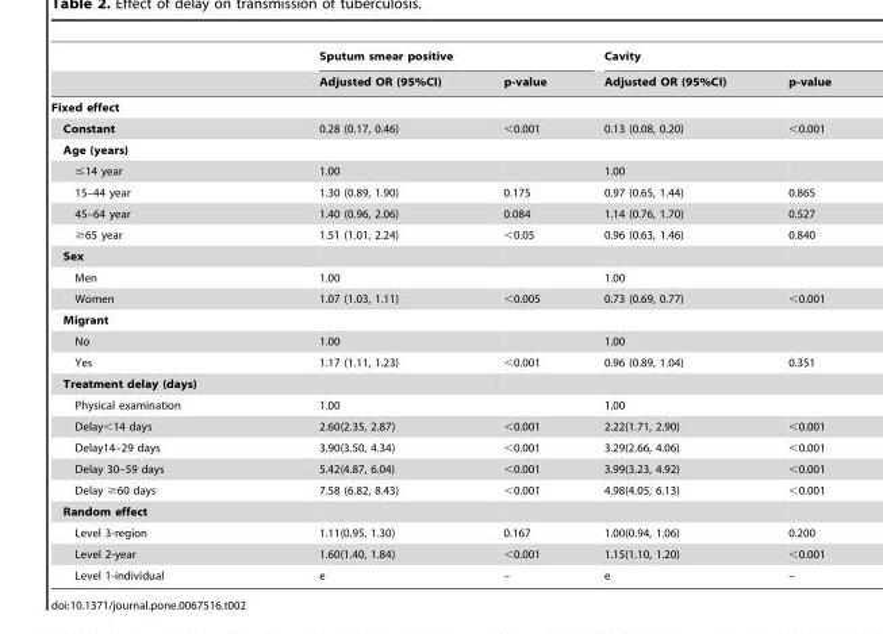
<table><thead><tr><td rowspan="2"></td><td colspan="2">Sputum smear positive</td><td colspan="2">Cavity</td></tr><tr><td>Adjusted OR (95%CI)</td><td>p-value</td><td>Adjusted OR (95%CI)</td><td>p-value</td></tr></thead><tbody><tr><td colspan="5">Fixed effect</td></tr><tr><td>Constant</td><td>0.28 (0.17, 0.46)</td><td>&lt;0.001</td><td>0.13 (0.08, 0.20)</td><td>&lt;0.001</td></tr><tr><td colspan="5">Age (years)</td></tr><tr><td>≤14 year</td><td>1.00</td><td></td><td>1.00</td><td></td></tr><tr><td>15–44 year</td><td>1.30 (0.89, 1.90)</td><td>0.175</td><td>0.97 (0.65, 1.44)</td><td>0.865</td></tr><tr><td>45–64 year</td><td>1.40 (0.96, 2.06)</td><td>0.084</td><td>1.14 (0.76, 1.70)</td><td>0.527</td></tr><tr><td>≥65 year</td><td>1.51 (1.01, 2.24)</td><td>&lt;0.05</td><td>0.96 (0.63, 1.46)</td><td>0.840</td></tr><tr><td colspan="5">Sex</td></tr><tr><td>Men</td><td>1.00</td><td></td><td>1.00</td><td></td></tr><tr><td>Women</td><td>1.07 (1.03, 1.11)</td><td>&lt;0.005</td><td>0.73 (0.69, 0.77)</td><td>&lt;0.001</td></tr><tr><td colspan="5">Migrant</td></tr><tr><td>No</td><td>1.00</td><td></td><td>1.00</td><td></td></tr><tr><td>Yes</td><td>1.17 (1.11, 1.23)</td><td>&lt;0.001</td><td>0.96 (0.89, 1.04)</td><td>0.351</td></tr><tr><td colspan="5">Treatment delay (days)</td></tr><tr><td>Physical examination</td><td>1.00</td><td></td><td>1.00</td><td></td></tr><tr><td>Delay&lt;14 days</td><td>2.60(2.35, 2.87)</td><td>&lt;0.001</td><td>2.22(1.71, 2.90)</td><td>&lt;0.001</td></tr><tr><td>Delay14–29 days</td><td>3.90(3.50, 4.34)</td><td>&lt;0.001</td><td>3.29(2.66, 4.06)</td><td>&lt;0.001</td></tr><tr><td>Delay 30–59 days</td><td>5.42(4.87, 6.04)</td><td>&lt;0.001</td><td>3.99(3.23, 4.92)</td><td>&lt;0.001</td></tr><tr><td>Delay ≥60 days</td><td>7.58 (6.82, 8.43)</td><td>&lt;0.001</td><td>4.98(4.05, 6.13)</td><td>&lt;0.001</td></tr><tr><td colspan="5">Random effect</td></tr><tr><td>Level 3-region</td><td>1.11(0.95, 1.30)</td><td>0.167</td><td>1.00(0.94, 1.06)</td><td>0.200</td></tr><tr><td>Level 2-year</td><td>1.60(1.40, 1.84)</td><td>&lt;0.001</td><td>1.15(1.10, 1.20)</td><td>&lt;0.001</td></tr><tr><td>Level 1-individual</td><td>e</td><td>–</td><td>e</td><td>–</td></tr></tbody></table>